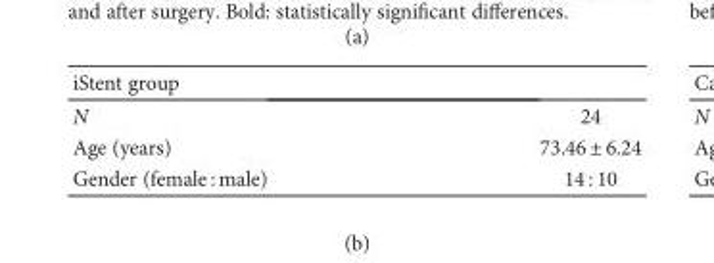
<table><thead><tr><td>iStent group</td><td></td></tr></thead><tbody><tr><td>N</td><td>24</td></tr><tr><td>Age (years)</td><td>73.46 ± 6.24</td></tr><tr><td>Gender (female : male)</td><td>14 : 10</td></tr></tbody></table>